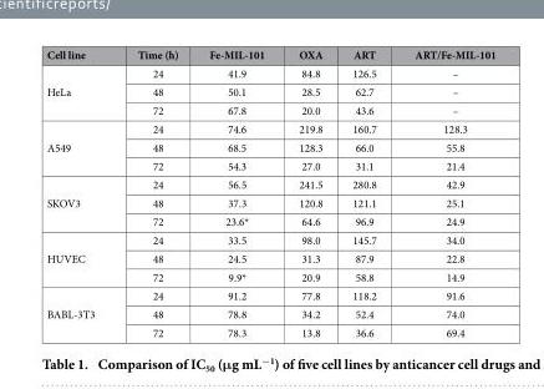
<table><thead><tr><td>Cell line</td><td>Time (h)</td><td>Fe-MIL-101</td><td>OXA</td><td>ART</td><td>ART/Fe-MIL-101</td></tr></thead><tbody><tr><td rowspan="3">HeLa</td><td>24</td><td>41.9</td><td>84.8</td><td>126.5</td><td>–</td></tr><tr><td>48</td><td>50.1</td><td>28.5</td><td>62.7</td><td>–</td></tr><tr><td>72</td><td>67.8</td><td>20.0</td><td>43.6</td><td>–</td></tr><tr><td rowspan="3">A549</td><td>24</td><td>74.6</td><td>219.8</td><td>160.7</td><td>128.3</td></tr><tr><td>48</td><td>68.5</td><td>128.3</td><td>66.0</td><td>55.8</td></tr><tr><td>72</td><td>54.3</td><td>27.0</td><td>31.1</td><td>21.4</td></tr><tr><td rowspan="3">SKOV3</td><td>24</td><td>56.5</td><td>241.5</td><td>280.8</td><td>42.9</td></tr><tr><td>48</td><td>37.3</td><td>120.8</td><td>121.1</td><td>25.1</td></tr><tr><td>72</td><td>23.6*</td><td>64.6</td><td>96.9</td><td>24.9</td></tr><tr><td rowspan="3">HUVEC</td><td>24</td><td>33.5</td><td>98.0</td><td>145.7</td><td>34.0</td></tr><tr><td>48</td><td>24.5</td><td>31.3</td><td>87.9</td><td>22.8</td></tr><tr><td>72</td><td>9.9*</td><td>20.9</td><td>58.8</td><td>14.9</td></tr><tr><td rowspan="3">BABL-3T3</td><td>24</td><td>91.2</td><td>77.8</td><td>118.2</td><td>91.6</td></tr><tr><td>48</td><td>78.8</td><td>34.2</td><td>52.4</td><td>74.0</td></tr><tr><td>72</td><td>78.3</td><td>13.8</td><td>36.6</td><td>69.4</td></tr></tbody></table>